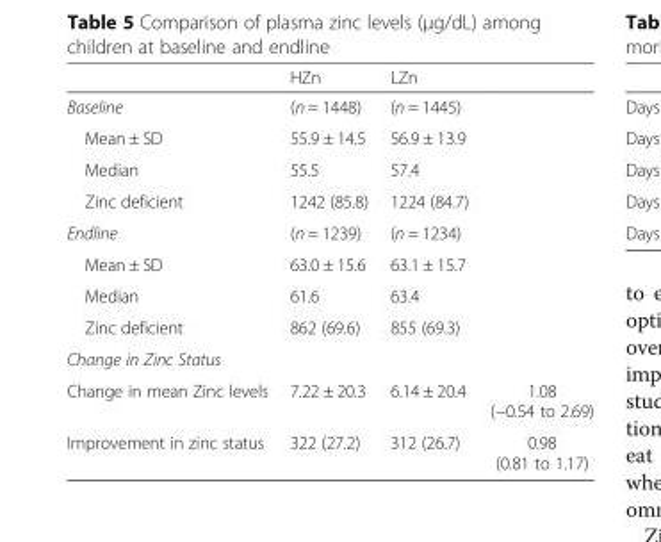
<table><thead><tr><td></td><td>HZn</td><td>LZn</td><td></td></tr></thead><tbody><tr><td>Baseline</td><td>(n = 1448)</td><td>(n = 1445)</td><td></td></tr><tr><td>Mean ± SD</td><td>55.9 ± 14.5</td><td>56.9 ± 13.9</td><td></td></tr><tr><td>Median</td><td>55.5</td><td>57.4</td><td></td></tr><tr><td>Zinc deficient</td><td>1242 (85.8)</td><td>1224 (84.7)</td><td></td></tr><tr><td>Endline</td><td>(n = 1239)</td><td>(n = 1234)</td><td></td></tr><tr><td>Mean ± SD</td><td>63.0 ± 15.6</td><td>63.1 ± 15.7</td><td></td></tr><tr><td>Median</td><td>61.6</td><td>63.4</td><td></td></tr><tr><td>Zinc deficient</td><td>862 (69.6)</td><td>855 (69.3)</td><td></td></tr><tr><td colspan="4">Change in Zinc Status</td></tr><tr><td>Change in mean Zinc levels</td><td>7.22 ± 20.3</td><td>6.14 ± 20.4</td><td>1.08 (−0.54 to 2.69)</td></tr><tr><td>Improvement in zinc status</td><td>322 (27.2)</td><td>312 (26.7)</td><td>0.98 (0.81 to 1.17)</td></tr></tbody></table>